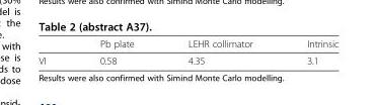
<table><thead><tr><td></td><td>Pb plate</td><td>LEHR collimator</td><td>Intrinsic</td></tr></thead><tbody><tr><td>VI</td><td>0.58</td><td>4.35</td><td>3.1</td></tr></tbody></table>